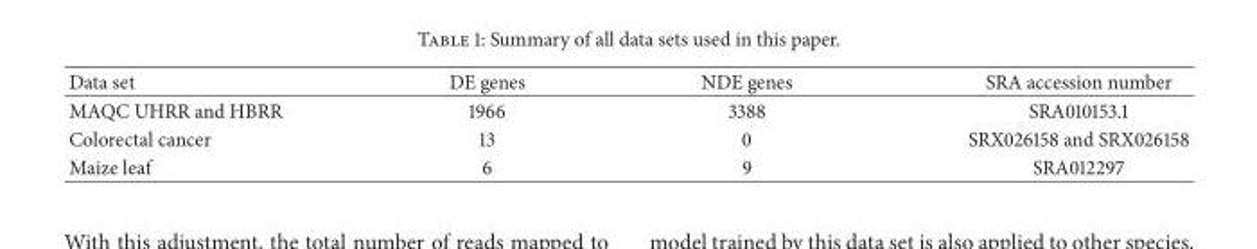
<table><thead><tr><td>Data set</td><td>DE genes</td><td>NDE genes</td><td>SRA accession number</td></tr></thead><tbody><tr><td>MAQC UHRR and HBRR</td><td>1966</td><td>3388</td><td>SRA010153.1</td></tr><tr><td>Colorectal cancer</td><td>13</td><td>0</td><td>SRX026158 and SRX026158</td></tr><tr><td>Maize leaf</td><td>6</td><td>9</td><td>SRA012297</td></tr></tbody></table>